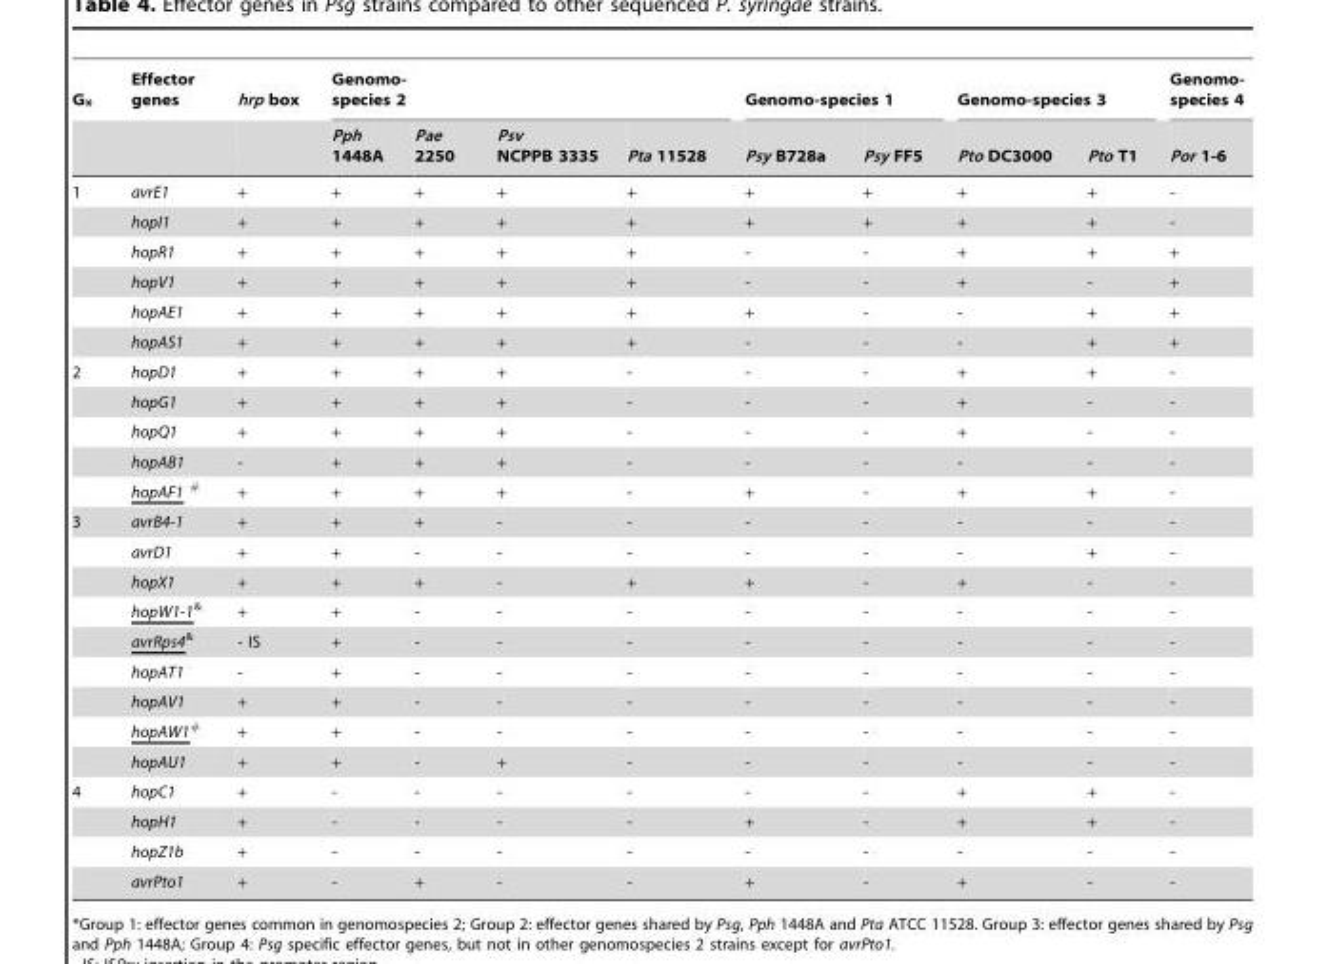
<table><thead><tr><td rowspan="2">G*</td><td rowspan="2">Effector genes</td><td rowspan="2">hrp box</td><td colspan="4">Genomo- species 2</td><td colspan="2">Genomo-species 1</td><td colspan="2">Genomo-species 3</td><td rowspan="2">Genomo- species 4 Por 1-6</td></tr><tr><td>Pph 1448A</td><td>Pae 2250</td><td>Psv NCPPB 3335</td><td>Pta 11528</td><td>Psy B728a</td><td>Psy FF5</td><td>Pto DC3000</td><td>Pto T1</td></tr></thead><tbody><tr><td rowspan="6">1</td><td>avrE1</td><td>+</td><td>+</td><td>+</td><td>+</td><td>+</td><td>+</td><td>+</td><td>+</td><td>+</td><td>-</td></tr><tr><td>hopI1</td><td>+</td><td>+</td><td>+</td><td>+</td><td>+</td><td>+</td><td>+</td><td>+</td><td>+</td><td>-</td></tr><tr><td>hopR1</td><td>+</td><td>+</td><td>+</td><td>+</td><td>+</td><td>-</td><td>-</td><td>+</td><td>+</td><td>+</td></tr><tr><td>hopV1</td><td>+</td><td>+</td><td>+</td><td>+</td><td>+</td><td>-</td><td>-</td><td>+</td><td>-</td><td>+</td></tr><tr><td>hopAE1</td><td>+</td><td>+</td><td>+</td><td>+</td><td>+</td><td>+</td><td>-</td><td>-</td><td>+</td><td>+</td></tr><tr><td>hopAS1</td><td>+</td><td>+</td><td>+</td><td>+</td><td>+</td><td>-</td><td>-</td><td>-</td><td>+</td><td>+</td></tr><tr><td rowspan="5">2</td><td>hopD1</td><td>+</td><td>+</td><td>+</td><td>+</td><td>-</td><td>-</td><td>-</td><td>+</td><td>+</td><td>-</td></tr><tr><td>hopG1</td><td>+</td><td>+</td><td>+</td><td>+</td><td>-</td><td>-</td><td>-</td><td>+</td><td>-</td><td>-</td></tr><tr><td>hopQ1</td><td>+</td><td>+</td><td>+</td><td>+</td><td>-</td><td>-</td><td>-</td><td>+</td><td>-</td><td>-</td></tr><tr><td>hopAB1</td><td>-</td><td>+</td><td>+</td><td>+</td><td>-</td><td>-</td><td>-</td><td>-</td><td>-</td><td>-</td></tr><tr><td>hopAF1 #</td><td>+</td><td>+</td><td>+</td><td>+</td><td>-</td><td>+</td><td>-</td><td>+</td><td>+</td><td>-</td></tr><tr><td rowspan="9">3</td><td>avrB4-1</td><td>+</td><td>+</td><td>+</td><td>-</td><td>-</td><td>-</td><td>-</td><td>-</td><td>-</td><td>-</td></tr><tr><td>avrD1</td><td>+</td><td>+</td><td>-</td><td>-</td><td>-</td><td>-</td><td>-</td><td>-</td><td>+</td><td>-</td></tr><tr><td>hopX1</td><td>+</td><td>+</td><td>+</td><td>-</td><td>+</td><td>+</td><td>-</td><td>+</td><td>-</td><td>-</td></tr><tr><td>hopW1-1&amp;</td><td>+</td><td>+</td><td>-</td><td>-</td><td>-</td><td>-</td><td>-</td><td>-</td><td>-</td><td>-</td></tr><tr><td>avrRps4&amp;</td><td>- IS</td><td>+</td><td>-</td><td>-</td><td>-</td><td>-</td><td>-</td><td>-</td><td>-</td><td>-</td></tr><tr><td>hopAT1</td><td>-</td><td>+</td><td>-</td><td>-</td><td>-</td><td>-</td><td>-</td><td>-</td><td>-</td><td>-</td></tr><tr><td>hopAV1</td><td>+</td><td>+</td><td>-</td><td>-</td><td>-</td><td>-</td><td>-</td><td>-</td><td>-</td><td>-</td></tr><tr><td>hopAW1#</td><td>+</td><td>+</td><td>-</td><td>-</td><td>-</td><td>-</td><td>-</td><td>-</td><td>-</td><td>-</td></tr><tr><td>hopAU1</td><td>+</td><td>+</td><td>-</td><td>+</td><td>-</td><td>-</td><td>-</td><td>-</td><td>-</td><td>-</td></tr><tr><td rowspan="4">4</td><td>hopC1</td><td>+</td><td>-</td><td>-</td><td>-</td><td>-</td><td>-</td><td>-</td><td>+</td><td>+</td><td>-</td></tr><tr><td>hopH1</td><td>+</td><td>-</td><td>-</td><td>-</td><td>-</td><td>+</td><td>-</td><td>+</td><td>+</td><td>-</td></tr><tr><td>hopZ1b</td><td>+</td><td>-</td><td>-</td><td>-</td><td>-</td><td>-</td><td>-</td><td>-</td><td>-</td><td>-</td></tr><tr><td>avrPto1</td><td>+</td><td>-</td><td>+</td><td>-</td><td>-</td><td>+</td><td>-</td><td>+</td><td>-</td><td>-</td></tr></tbody></table>